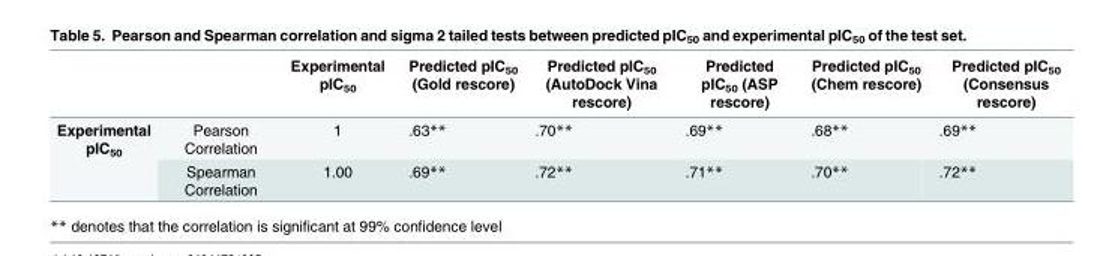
<table><thead><tr><td></td><td></td><td>Experimental pIC<sub>50</sub></td><td>Predicted pIC<sub>50</sub> (Gold rescore)</td><td>Predicted pIC<sub>50</sub> (AutoDock Vina rescore)</td><td>Predicted pIC<sub>50</sub> (ASP rescore)</td><td>Predicted pIC<sub>50</sub> (Chem rescore)</td><td>Predicted pIC<sub>50</sub> (Consensus rescore)</td></tr></thead><tbody><tr><td rowspan="2">Experimental pIC<sub>50</sub></td><td>Pearson Correlation</td><td>1</td><td>.63**</td><td>.70**</td><td>.69**</td><td>.68**</td><td>.69**</td></tr><tr><td>Spearman Correlation</td><td>1.00</td><td>.69**</td><td>.72**</td><td>.71**</td><td>.70**</td><td>.72**</td></tr></tbody></table>